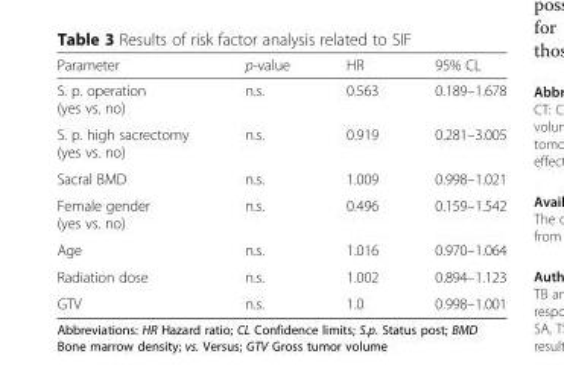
<table><thead><tr><td>Parameter</td><td>p-value</td><td>HR</td><td>95% CL</td></tr></thead><tbody><tr><td>S. p. operation (yes vs. no)</td><td>n.s.</td><td>0.563</td><td>0.189–1.678</td></tr><tr><td>S. p. high sacrectomy (yes vs. no)</td><td>n.s.</td><td>0.919</td><td>0.281–3.005</td></tr><tr><td>Sacral BMD</td><td>n.s.</td><td>1.009</td><td>0.998–1.021</td></tr><tr><td>Female gender (yes vs. no)</td><td>n.s.</td><td>0.496</td><td>0.159–1.542</td></tr><tr><td>Age</td><td>n.s.</td><td>1.016</td><td>0.970–1.064</td></tr><tr><td>Radiation dose</td><td>n.s.</td><td>1.002</td><td>0.894–1.123</td></tr><tr><td>GTV</td><td>n.s.</td><td>1.0</td><td>0.998–1.001</td></tr></tbody></table>